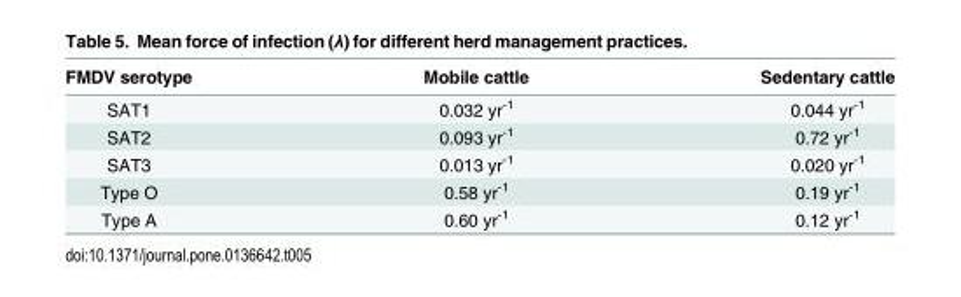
<table><thead><tr><td>FMDV serotype</td><td>Mobile cattle</td><td>Sedentary cattle</td></tr></thead><tbody><tr><td>SAT1</td><td>0.032 yr<sup>-1</sup></td><td>0.044 yr<sup>-1</sup></td></tr><tr><td>SAT2</td><td>0.093 yr<sup>-1</sup></td><td>0.72 yr<sup>-1</sup></td></tr><tr><td>SAT3</td><td>0.013 yr<sup>-1</sup></td><td>0.020 yr<sup>-1</sup></td></tr><tr><td>Type O</td><td>0.58 yr<sup>-1</sup></td><td>0.19 yr<sup>-1</sup></td></tr><tr><td>Type A</td><td>0.60 yr<sup>-1</sup></td><td>0.12 yr<sup>-1</sup></td></tr></tbody></table>